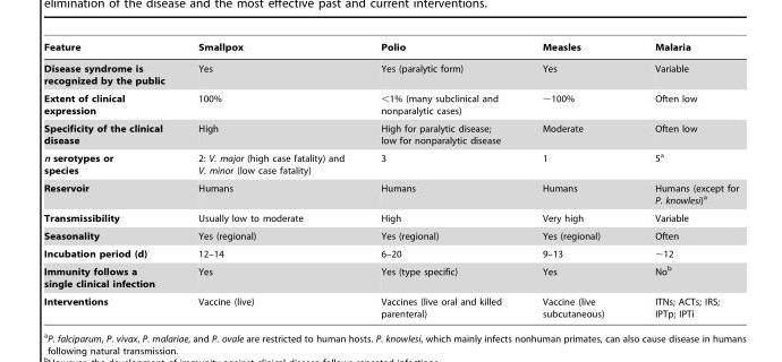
<table><thead><tr><td>Feature</td><td>Smallpox</td><td>Polio</td><td>Measles</td><td>Malaria</td></tr></thead><tbody><tr><td>Disease syndrome is recognized by the public</td><td>Yes</td><td>Yes (paralytic form)</td><td>Yes</td><td>Variable</td></tr><tr><td>Extent of clinical expression</td><td>100%</td><td>&lt;1% (many subclinical and nonparalytic cases)</td><td>∼100%</td><td>Often low</td></tr><tr><td>Specificity of the clinical disease</td><td>High</td><td>High for paralytic disease; low for nonparalytic disease</td><td>Moderate</td><td>Often low</td></tr><tr><td>n serotypes or species</td><td>2: V. major (high case fatality) and V. minor (low case fatality)</td><td>3</td><td>1</td><td>5<sup>a</sup></td></tr><tr><td>Reservoir</td><td>Humans</td><td>Humans</td><td>Humans</td><td>Humans (except for P. knowlesi)<sup>a</sup></td></tr><tr><td>Transmissibility</td><td>Usually low to moderate</td><td>High</td><td>Very high</td><td>Variable</td></tr><tr><td>Seasonality</td><td>Yes (regional)</td><td>Yes (regional)</td><td>Yes (regional)</td><td>Often</td></tr><tr><td>Incubation period (d)</td><td>12–14</td><td>6–20</td><td>9–13</td><td>∼12</td></tr><tr><td>Immunity follows a single clinical infection</td><td>Yes</td><td>Yes (type specific)</td><td>Yes</td><td>No<sup>b</sup></td></tr><tr><td>Interventions</td><td>Vaccine (live)</td><td>Vaccines (live oral and killed parenteral)</td><td>Vaccine (live subcutaneous)</td><td>ITNs; ACTs; IRS; IPTp; IPTi</td></tr></tbody></table>